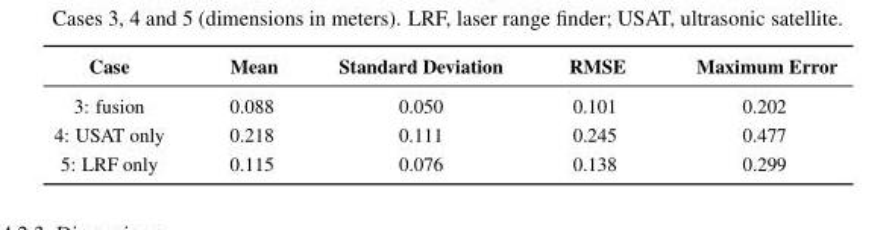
<table><thead><tr><td>Case</td><td>Mean</td><td>Standard Deviation</td><td>RMSE</td><td>Maximum Error</td></tr></thead><tbody><tr><td>3: fusion</td><td>0.088</td><td>0.050</td><td>0.101</td><td>0.202</td></tr><tr><td>4: USAT only</td><td>0.218</td><td>0.111</td><td>0.245</td><td>0.477</td></tr><tr><td>5: LRF only</td><td>0.115</td><td>0.076</td><td>0.138</td><td>0.299</td></tr></tbody></table>